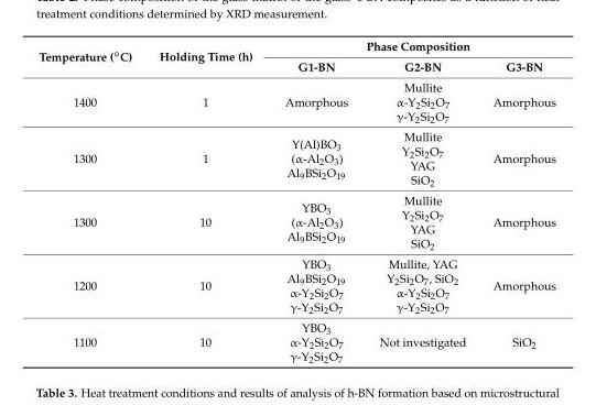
<table><thead><tr><td rowspan="2">Temperature (◦C)</td><td rowspan="2">Holding Time (h)</td><td colspan="3">Phase Composition</td></tr><tr><td>G1-BN</td><td>G2-BN</td><td>G3-BN</td></tr></thead><tbody><tr><td>1400</td><td>1</td><td>Amorphous</td><td>Mullite α-Y<sub>2</sub>Si<sub>2</sub>O<sub>7</sub> γ-Y<sub>2</sub>Si<sub>2</sub>O<sub>7</sub></td><td>Amorphous</td></tr><tr><td>1300</td><td>1</td><td>Y(Al)BO<sub>3</sub> (α-Al<sub>2</sub>O<sub>3</sub>) Al<sub>9</sub>BSi<sub>2</sub>O<sub>19</sub></td><td>Mullite Y<sub>2</sub>Si<sub>2</sub>O<sub>7</sub> YAG SiO<sub>2</sub></td><td>Amorphous</td></tr><tr><td>1300</td><td>10</td><td>YBO<sub>3</sub> (α-Al<sub>2</sub>O<sub>3</sub>) Al<sub>9</sub>BSi<sub>2</sub>O<sub>19</sub></td><td>Mullite Y<sub>2</sub>Si<sub>2</sub>O<sub>7</sub> YAG SiO<sub>2</sub></td><td>Amorphous</td></tr><tr><td>1200</td><td>10</td><td>YBO<sub>3</sub> Al<sub>9</sub>BSi<sub>2</sub>O<sub>19</sub> α-Y<sub>2</sub>Si<sub>2</sub>O<sub>7</sub> γ-Y<sub>2</sub>Si<sub>2</sub>O<sub>7</sub></td><td>Mullite, YAG Y<sub>2</sub>Si<sub>2</sub>O<sub>7</sub>, SiO<sub>2</sub> α-Y<sub>2</sub>Si<sub>2</sub>O<sub>7</sub> γ-Y<sub>2</sub>Si<sub>2</sub>O<sub>7</sub></td><td>Amorphous</td></tr><tr><td>1100</td><td>10</td><td>YBO<sub>3</sub> α-Y<sub>2</sub>Si<sub>2</sub>O<sub>7</sub> γ-Y<sub>2</sub>Si<sub>2</sub>O<sub>7</sub></td><td>Not investigated</td><td>SiO<sub>2</sub></td></tr></tbody></table>